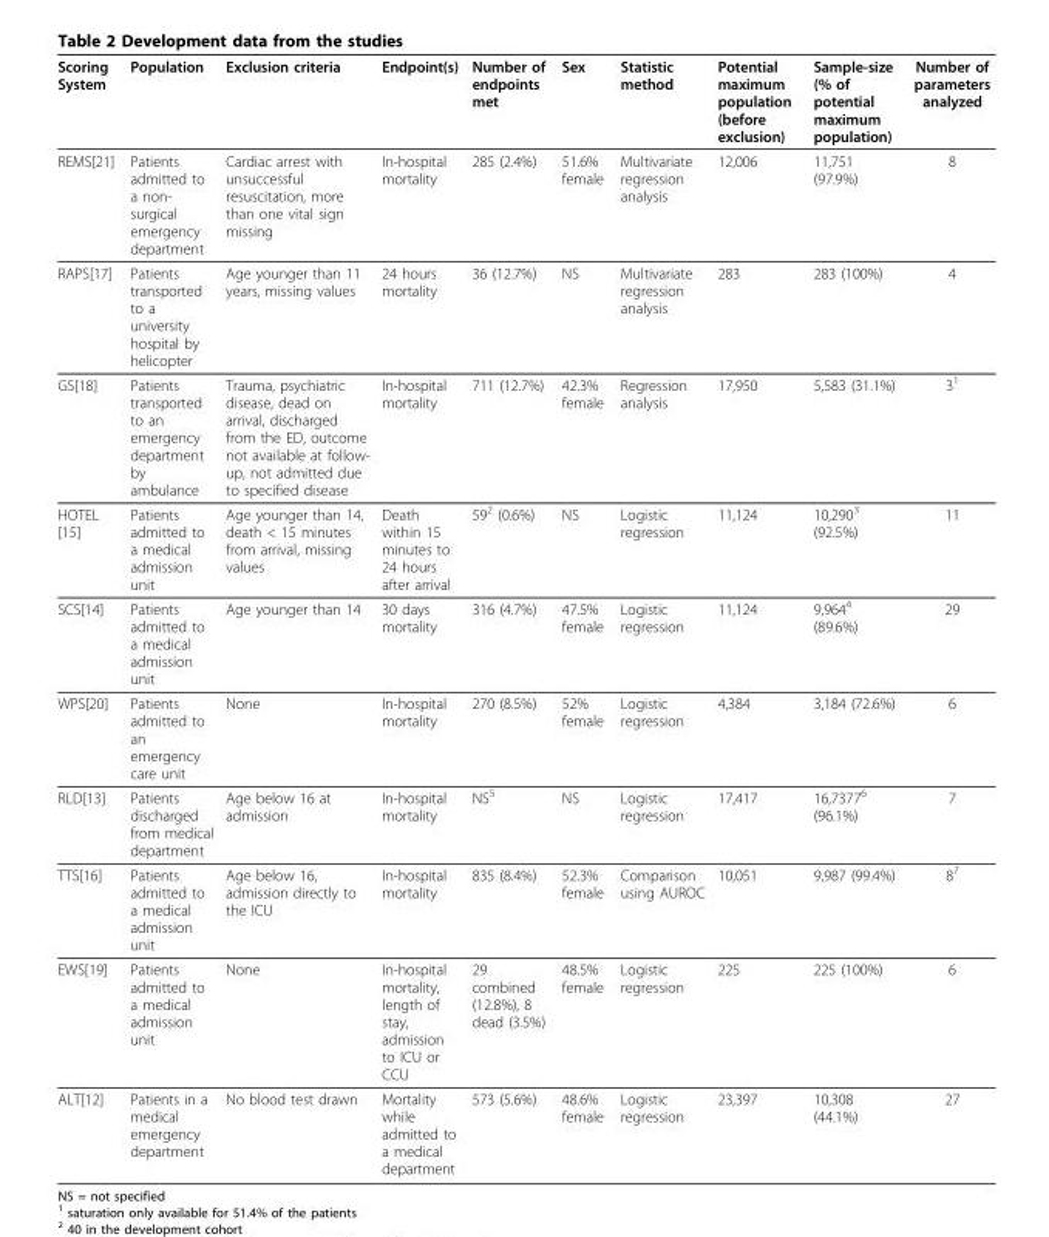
<table><thead><tr><td>Scoring System</td><td>Population</td><td>Exclusion criteria</td><td>Endpoint(s)</td><td>Number of endpoints met</td><td>Sex</td><td>Statistic method</td><td>Potential maximum population (before exclusion)</td><td>Sample-size (% of potential maximum population)</td><td>Number of parameters analyzed</td></tr></thead><tbody><tr><td>REMS[21]</td><td>Patients admitted to a non- surgical emergency department</td><td>Cardiac arrest with unsuccessful resuscitation, more than one vital sign missing</td><td>In-hospital mortality</td><td>285 (2.4%)</td><td>51.6% female</td><td>Multivariate regression analysis</td><td>12,006</td><td>11,751 (97.9%)</td><td>8</td></tr><tr><td>RAPS[17]</td><td>Patients transported to a university hospital by helicopter</td><td>Age younger than 11 years, missing values</td><td>24 hours mortality</td><td>36 (12.7%)</td><td>NS</td><td>Multivariate regression analysis</td><td>283</td><td>283 (100%)</td><td>4</td></tr><tr><td>GS[18]</td><td>Patients transported to an emergency department by ambulance</td><td>Trauma, psychiatric disease, dead on arrival, discharged from the ED, outcome not available at follow- up, not admitted due to specified disease</td><td>In-hospital mortality</td><td>711 (12.7%)</td><td>42.3% female</td><td>Regression analysis</td><td>17,950</td><td>5,583 (31.1%)</td><td>3<sup>1</sup></td></tr><tr><td>HOTEL [15]</td><td>Patients admitted to a medical admission unit</td><td>Age younger than 14, death &lt; 15 minutes from arrival, missing values</td><td>Death within 15 minutes to 24 hours after arrival</td><td>59<sup>2</sup> (0.6%)</td><td>NS</td><td>Logistic regression</td><td>11,124</td><td>10,290<sup>3</sup> (92.5%)</td><td>11</td></tr><tr><td>SCS[14]</td><td>Patients admitted to a medical admission unit</td><td>Age younger than 14</td><td>30 days mortality</td><td>316 (4.7%)</td><td>47.5% female</td><td>Logistic regression</td><td>11,124</td><td>9,964<sup>4</sup> (89.6%)</td><td>29</td></tr><tr><td>WPS[20]</td><td>Patients admitted to an emergency care unit</td><td>None</td><td>In-hospital mortality</td><td>270 (8.5%)</td><td>52% female</td><td>Logistic regression</td><td>4,384</td><td>3,184 (72.6%)</td><td>6</td></tr><tr><td>RLD[13]</td><td>Patients discharged from medical department</td><td>Age below 16 at admission</td><td>In-hospital mortality</td><td>NS<sup>5</sup></td><td>NS</td><td>Logistic regression</td><td>17,417</td><td>16,7377<sup>6</sup> (96.1%)</td><td>7</td></tr><tr><td>TTS[16]</td><td>Patients admitted to a medical admission unit</td><td>Age below 16, admission directly to the ICU</td><td>In-hospital mortality</td><td>835 (8.4%)</td><td>52.3% female</td><td>Comparison using AUROC</td><td>10,051</td><td>9,987 (99.4%)</td><td>8<sup>7</sup></td></tr><tr><td>EWS[19]</td><td>Patients admitted to a medical admission unit</td><td>None</td><td>In-hospital mortality, length of stay, admission to ICU or CCU</td><td>29 combined (12.8%), 8 dead (3.5%)</td><td>48.5% female</td><td>Logistic regression</td><td>225</td><td>225 (100%)</td><td>6</td></tr><tr><td>ALT[12]</td><td>Patients in a medical emergency department</td><td>No blood test drawn</td><td>Mortality while admitted to a medical department</td><td>573 (5.6%)</td><td>48.6% female</td><td>Logistic regression</td><td>23,397</td><td>10,308 (44.1%)</td><td>27</td></tr></tbody></table>